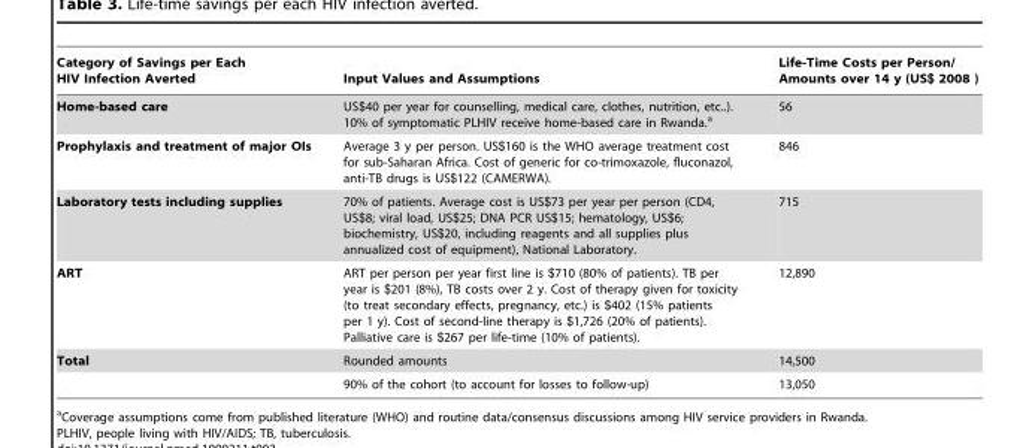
<table><thead><tr><td>Category of Savings per Each HIV Infection Averted</td><td>Input Values and Assumptions</td><td>Life-Time Costs per Person/ Amounts over 14 y (US$ 2008 )</td></tr></thead><tbody><tr><td>Home-based care</td><td>US$40 per year for counselling, medical care, clothes, nutrition, etc..). 10% of symptomatic PLHIV receive home-based care in Rwanda.<sup>a</sup></td><td>56</td></tr><tr><td>Prophylaxis and treatment of major OIs</td><td>Average 3 y per person. US$160 is the WHO average treatment cost for sub-Saharan Africa. Cost of generic for co-trimoxazole, fluconazol, anti-TB drugs is US$122 (CAMERWA).</td><td>846</td></tr><tr><td>Laboratory tests including supplies</td><td>70% of patients. Average cost is US$73 per year per person (CD4, US$8; viral load, US$25; DNA PCR US$15; hematology, US$6; biochemistry, US$20, including reagents and all supplies plus annualized cost of equipment), National Laboratory.</td><td>715</td></tr><tr><td>ART</td><td>ART per person per year first line is $710 (80% of patients). TB per year is $201 (8%), TB costs over 2 y. Cost of therapy given for toxicity (to treat secondary effects, pregnancy, etc.) is $402 (15% patients per 1 y). Cost of second-line therapy is $1,726 (20% of patients). Palliative care is $267 per life-time (10% of patients).</td><td>12,890</td></tr><tr><td rowspan="2">Total</td><td>Rounded amounts</td><td>14,500</td></tr><tr><td>90% of the cohort (to account for losses to follow-up)</td><td>13,050</td></tr></tbody></table>